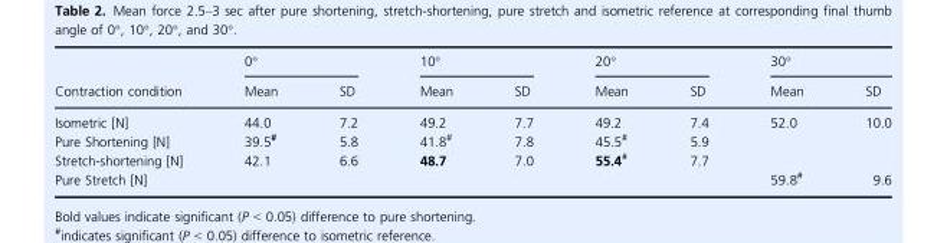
<table><thead><tr><td rowspan="2">Contraction condition</td><td colspan="2">0°</td><td colspan="2">10°</td><td colspan="2">20°</td><td colspan="2">30°</td></tr><tr><td>Mean</td><td>SD</td><td>Mean</td><td>SD</td><td>Mean</td><td>SD</td><td>Mean</td><td>SD</td></tr></thead><tbody><tr><td>Isometric [N]</td><td>44.0</td><td>7.2</td><td>49.2</td><td>7.7</td><td>49.2</td><td>7.4</td><td>52.0</td><td>10.0</td></tr><tr><td>Pure Shortening [N]</td><td>39.5#</td><td>5.8</td><td>41.8#</td><td>7.8</td><td>45.5#</td><td>5.9</td><td></td><td></td></tr><tr><td>Stretch-shortening [N]</td><td>42.1</td><td>6.6</td><td>48.7</td><td>7.0</td><td>55.4#</td><td>7.7</td><td></td><td></td></tr><tr><td>Pure Stretch [N]</td><td></td><td></td><td></td><td></td><td></td><td></td><td>59.8#</td><td>9.6</td></tr></tbody></table>